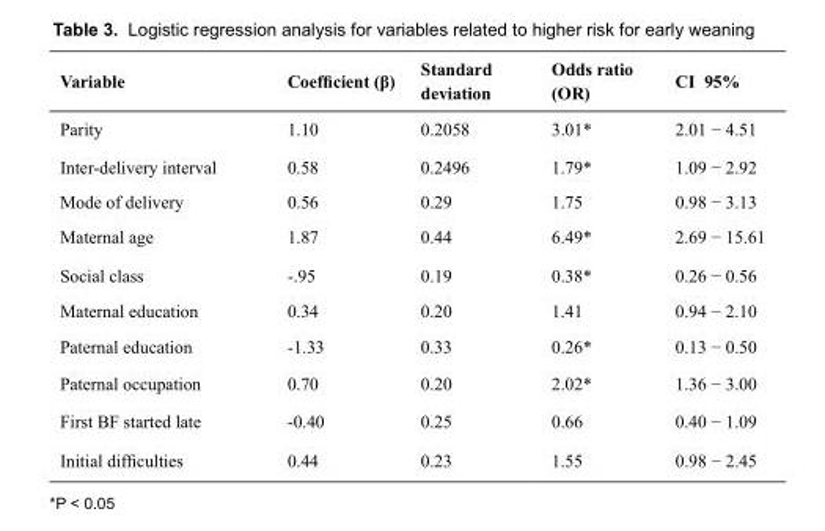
<table><thead><tr><td>Variable</td><td>Coefficient (β)</td><td>Standard deviation</td><td>Odds ratio (OR)</td><td>CI 95%</td></tr></thead><tbody><tr><td>Parity</td><td>1.10</td><td>0.2058</td><td>3.01*</td><td>2.01 − 4.51</td></tr><tr><td>Inter-delivery interval</td><td>0.58</td><td>0.2496</td><td>1.79*</td><td>1.09 − 2.92</td></tr><tr><td>Mode of delivery</td><td>0.56</td><td>0.29</td><td>1.75</td><td>0.98 − 3.13</td></tr><tr><td>Maternal age</td><td>1.87</td><td>0.44</td><td>6.49*</td><td>2.69 − 15.61</td></tr><tr><td>Social class</td><td>-.95</td><td>0.19</td><td>0.38*</td><td>0.26 − 0.56</td></tr><tr><td>Maternal education</td><td>0.34</td><td>0.20</td><td>1.41</td><td>0.94 − 2.10</td></tr><tr><td>Paternal education</td><td>-1.33</td><td>0.33</td><td>0.26*</td><td>0.13 − 0.50</td></tr><tr><td>Paternal occupation</td><td>0.70</td><td>0.20</td><td>2.02*</td><td>1.36 − 3.00</td></tr><tr><td>First BF started late</td><td>-0.40</td><td>0.25</td><td>0.66</td><td>0.40 − 1.09</td></tr><tr><td>Initial difficulties</td><td>0.44</td><td>0.23</td><td>1.55</td><td>0.98 − 2.45</td></tr></tbody></table>